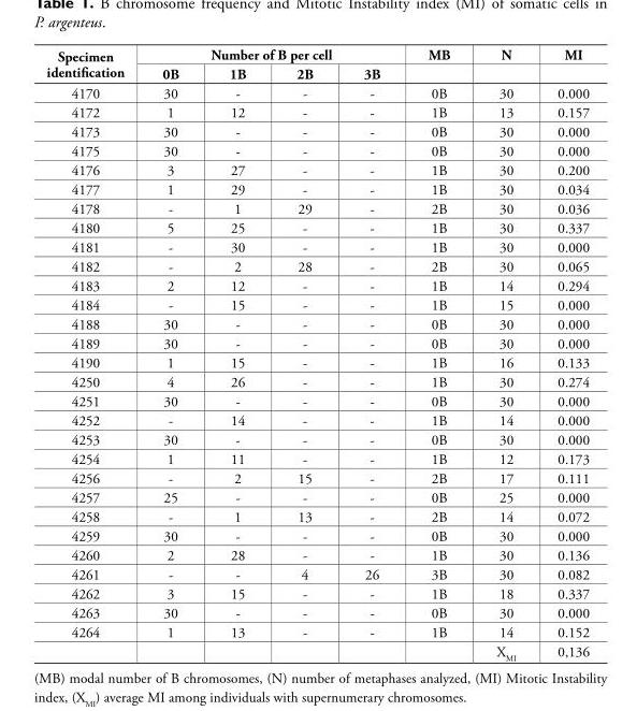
<table><thead><tr><td rowspan="2">Specimen identification</td><td colspan="4">Number of B per cell</td><td rowspan="2">MB</td><td rowspan="2">N</td><td rowspan="2">MI</td></tr><tr><td>0B</td><td>1B</td><td>2B</td><td>3B</td></tr></thead><tbody><tr><td>4170</td><td>30</td><td>-</td><td>-</td><td>-</td><td>0B</td><td>30</td><td>0.000</td></tr><tr><td>4172</td><td>1</td><td>12</td><td>-</td><td>-</td><td>1B</td><td>13</td><td>0.157</td></tr><tr><td>4173</td><td>30</td><td>-</td><td>-</td><td>-</td><td>0B</td><td>30</td><td>0.000</td></tr><tr><td>4175</td><td>30</td><td>-</td><td>-</td><td>-</td><td>0B</td><td>30</td><td>0.000</td></tr><tr><td>4176</td><td>3</td><td>27</td><td>-</td><td>-</td><td>1B</td><td>30</td><td>0.200</td></tr><tr><td>4177</td><td>1</td><td>29</td><td>-</td><td>-</td><td>1B</td><td>30</td><td>0.034</td></tr><tr><td>4178</td><td>-</td><td>1</td><td>29</td><td>-</td><td>2B</td><td>30</td><td>0.036</td></tr><tr><td>4180</td><td>5</td><td>25</td><td>-</td><td>-</td><td>1B</td><td>30</td><td>0.337</td></tr><tr><td>4181</td><td>-</td><td>30</td><td>-</td><td>-</td><td>1B</td><td>30</td><td>0.000</td></tr><tr><td>4182</td><td>-</td><td>2</td><td>28</td><td>-</td><td>2B</td><td>30</td><td>0.065</td></tr><tr><td>4183</td><td>2</td><td>12</td><td>-</td><td>-</td><td>1B</td><td>14</td><td>0.294</td></tr><tr><td>4184</td><td>-</td><td>15</td><td>-</td><td>-</td><td>1B</td><td>15</td><td>0.000</td></tr><tr><td>4188</td><td>30</td><td>-</td><td>-</td><td>-</td><td>0B</td><td>30</td><td>0.000</td></tr><tr><td>4189</td><td>30</td><td>-</td><td>-</td><td>-</td><td>0B</td><td>30</td><td>0.000</td></tr><tr><td>4190</td><td>1</td><td>15</td><td>-</td><td>-</td><td>1B</td><td>16</td><td>0.133</td></tr><tr><td>4250</td><td>4</td><td>26</td><td>-</td><td>-</td><td>1B</td><td>30</td><td>0.274</td></tr><tr><td>4251</td><td>30</td><td>-</td><td>-</td><td>-</td><td>0B</td><td>30</td><td>0.000</td></tr><tr><td>4252</td><td>-</td><td>14</td><td>-</td><td>-</td><td>1B</td><td>14</td><td>0.000</td></tr><tr><td>4253</td><td>30</td><td>-</td><td>-</td><td>-</td><td>0B</td><td>30</td><td>0.000</td></tr><tr><td>4254</td><td>1</td><td>11</td><td>-</td><td>-</td><td>1B</td><td>12</td><td>0.173</td></tr><tr><td>4256</td><td>-</td><td>2</td><td>15</td><td>-</td><td>2B</td><td>17</td><td>0.111</td></tr><tr><td>4257</td><td>25</td><td>-</td><td>-</td><td>-</td><td>0B</td><td>25</td><td>0.000</td></tr><tr><td>4258</td><td>-</td><td>1</td><td>13</td><td>-</td><td>2B</td><td>14</td><td>0.072</td></tr><tr><td>4259</td><td>30</td><td>-</td><td>-</td><td>-</td><td>0B</td><td>30</td><td>0.000</td></tr><tr><td>4260</td><td>2</td><td>28</td><td>-</td><td>-</td><td>1B</td><td>30</td><td>0.136</td></tr><tr><td>4261</td><td>-</td><td>-</td><td>4</td><td>26</td><td>3B</td><td>30</td><td>0.082</td></tr><tr><td>4262</td><td>3</td><td>15</td><td>-</td><td>-</td><td>1B</td><td>18</td><td>0.337</td></tr><tr><td>4263</td><td>30</td><td>-</td><td>-</td><td>-</td><td>0B</td><td>30</td><td>0.000</td></tr><tr><td rowspan="2">4264</td><td>1</td><td>13</td><td>-</td><td>-</td><td>1B</td><td>14</td><td>0.152</td></tr><tr><td></td><td></td><td></td><td></td><td></td><td>X<sub>MI</sub></td><td>0,136</td></tr></tbody></table>